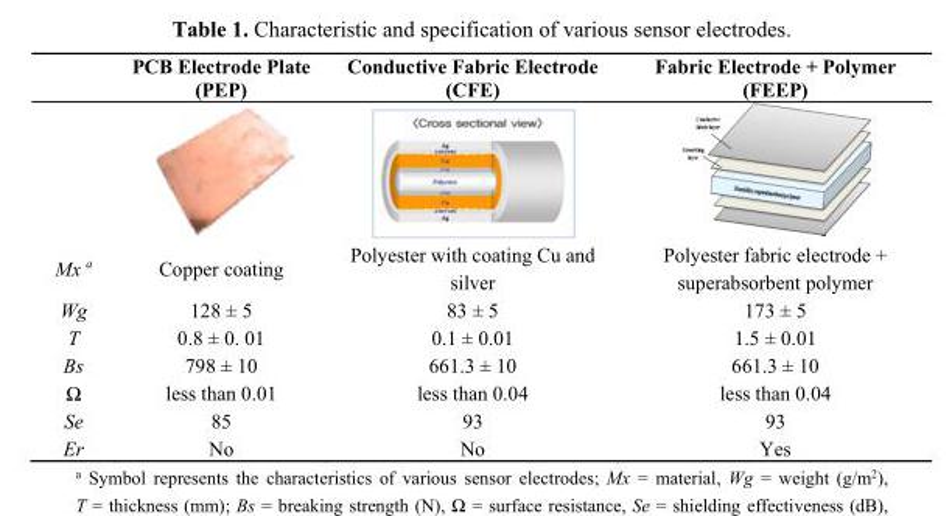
<table><thead><tr><td></td><td>PCB Electrode Plate (PEP)</td><td>Conductive Fabric Electrode (CFE)</td><td>Fabric Electrode + Polymer (FEEP)</td></tr></thead><tbody><tr><td>Mx <sup>a</sup></td><td>Copper coating</td><td>Polyester with coating Cu and silver</td><td>Polyester fabric electrode + superabsorbent polymer</td></tr><tr><td>Wg</td><td>128 ± 5</td><td>83 ± 5</td><td>173 ± 5</td></tr><tr><td>T</td><td>0.8 ± 0. 01</td><td>0.1 ± 0.01</td><td>1.5 ± 0.01</td></tr><tr><td>Bs</td><td>798 ± 10</td><td>661.3 ± 10</td><td>661.3 ± 10</td></tr><tr><td>Ω</td><td>less than 0.01</td><td>less than 0.04</td><td>less than 0.04</td></tr><tr><td>Se</td><td>85</td><td>93</td><td>93</td></tr><tr><td>Er</td><td>No</td><td>No</td><td>Yes</td></tr></tbody></table>